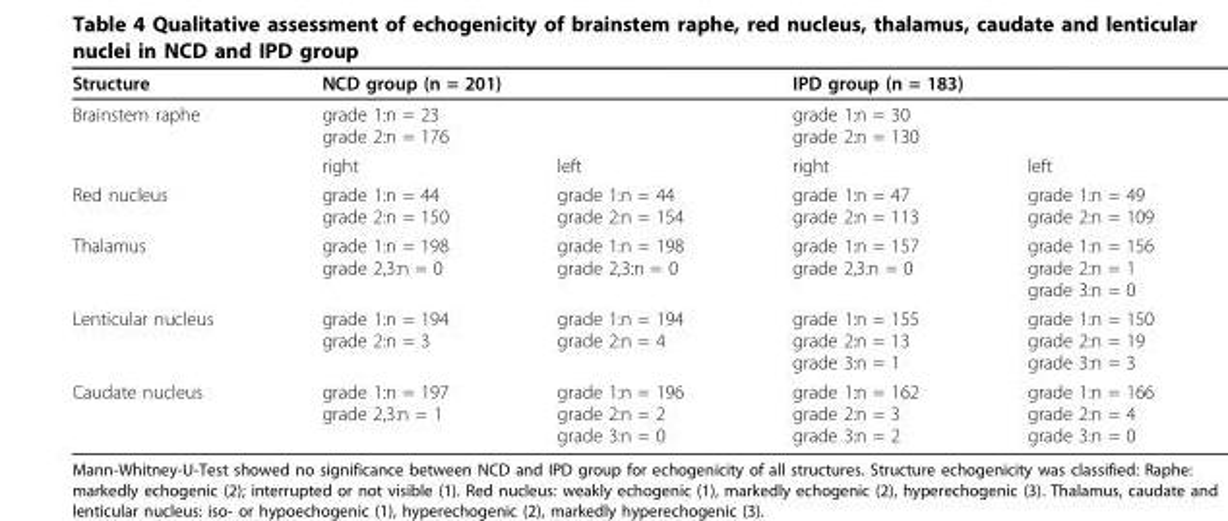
<table><thead><tr><td rowspan="2">Structure Brainstem raphe</td><td colspan="2">NCD group (n = 201)</td><td colspan="2">IPD group (n = 183)</td></tr><tr><td>grade 1:n = 23 grade 2:n = 176</td><td></td><td>grade 1:n = 30 grade 2:n = 130</td><td></td></tr></thead><tbody><tr><td></td><td>right</td><td>left</td><td>right</td><td>left</td></tr><tr><td>Red nucleus</td><td>grade 1:n = 44 grade 2:n = 150</td><td>grade 1:n = 44 grade 2:n = 154</td><td>grade 1:n = 47 grade 2:n = 113</td><td>grade 1:n = 49 grade 2:n = 109</td></tr><tr><td>Thalamus</td><td>grade 1:n = 198 grade 2,3:n = 0</td><td>grade 1:n = 198 grade 2,3:n = 0</td><td>grade 1:n = 157 grade 2,3:n = 0</td><td>grade 1:n = 156 grade 2:n = 1 grade 3:n = 0</td></tr><tr><td>Lenticular nucleus</td><td>grade 1:n = 194 grade 2:n = 3</td><td>grade 1:n = 194 grade 2:n = 4</td><td>grade 1:n = 155 grade 2:n = 13 grade 3:n = 1</td><td>grade 1:n = 150 grade 2:n = 19 grade 3:n = 3</td></tr><tr><td>Caudate nucleus</td><td>grade 1:n = 197 grade 2,3:n = 1</td><td>grade 1:n = 196 grade 2:n = 2 grade 3:n = 0</td><td>grade 1:n = 162 grade 2:n = 3 grade 3:n = 2</td><td>grade 1:n = 166 grade 2:n = 4 grade 3:n = 0</td></tr></tbody></table>